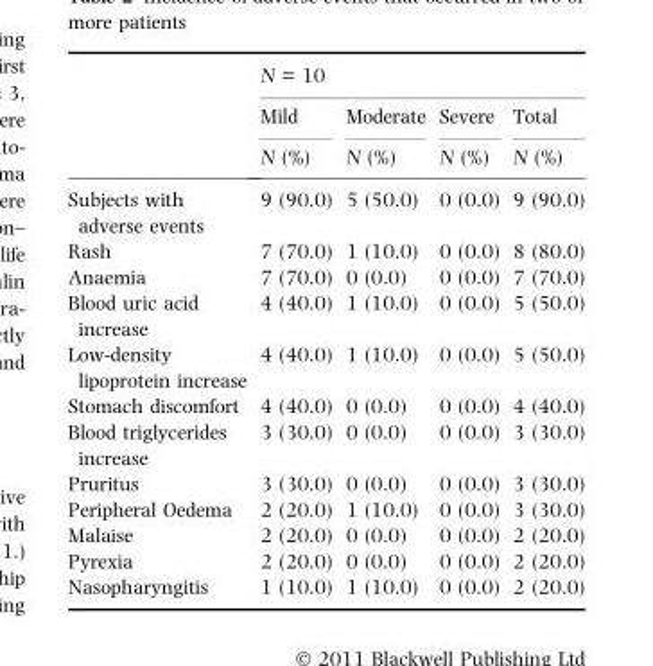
<table><thead><tr><td rowspan="3"></td><td colspan="4">N = 10</td></tr><tr><td rowspan="2">Mild N (%)</td><td rowspan="2">Moderate N (%)</td><td rowspan="2">Severe N (%)</td><td rowspan="2">Total N (%)</td></tr><tr></tr></thead><tbody><tr><td>Subjects with adverse events</td><td>9 (90.0)</td><td>5 (50.0)</td><td>0 (0.0)</td><td>9 (90.0)</td></tr><tr><td>Rash</td><td>7 (70.0)</td><td>1 (10.0)</td><td>0 (0.0)</td><td>8 (80.0)</td></tr><tr><td>Anaemia</td><td>7 (70.0)</td><td>0 (0.0)</td><td>0 (0.0)</td><td>7 (70.0)</td></tr><tr><td>Blood uric acid increase</td><td>4 (40.0)</td><td>1 (10.0)</td><td>0 (0.0)</td><td>5 (50.0)</td></tr><tr><td>Low-density lipoprotein increase</td><td>4 (40.0)</td><td>1 (10.0)</td><td>0 (0.0)</td><td>5 (50.0)</td></tr><tr><td>Stomach discomfort</td><td>4 (40.0)</td><td>0 (0.0)</td><td>0 (0.0)</td><td>4 (40.0)</td></tr><tr><td>Blood triglycerides increase</td><td>3 (30.0)</td><td>0 (0.0)</td><td>0 (0.0)</td><td>3 (30.0)</td></tr><tr><td>Pruritus</td><td>3 (30.0)</td><td>0 (0.0)</td><td>0 (0.0)</td><td>3 (30.0)</td></tr><tr><td>Peripheral Oedema</td><td>2 (20.0)</td><td>1 (10.0)</td><td>0 (0.0)</td><td>3 (30.0)</td></tr><tr><td>Malaise</td><td>2 (20.0)</td><td>0 (0.0)</td><td>0 (0.0)</td><td>2 (20.0)</td></tr><tr><td>Pyrexia</td><td>2 (20.0)</td><td>0 (0.0)</td><td>0 (0.0)</td><td>2 (20.0)</td></tr><tr><td>Nasopharyngitis</td><td>1 (10.0)</td><td>1 (10.0)</td><td>0 (0.0)</td><td>2 (20.0)</td></tr></tbody></table>